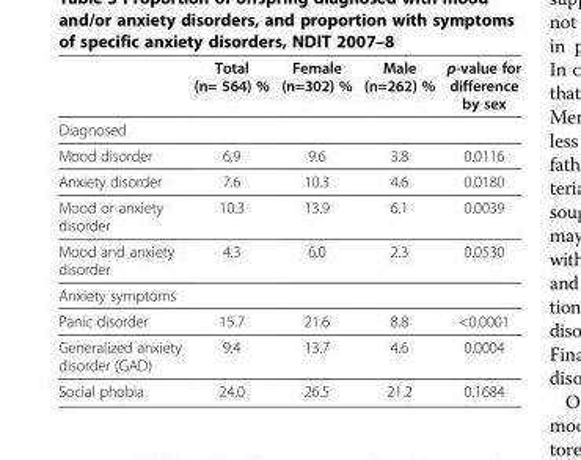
<table><thead><tr><td></td><td>Total (n= 564) %</td><td>Female (n=302) %</td><td>Male (n=262) %</td><td>p-value for difference by sex</td></tr></thead><tbody><tr><td colspan="5">Diagnosed</td></tr><tr><td>Mood disorder</td><td>6.9</td><td>9.6</td><td>3.8</td><td>0.0116</td></tr><tr><td>Anxiety disorder</td><td>7.6</td><td>10.3</td><td>4.6</td><td>0.0180</td></tr><tr><td>Mood or anxiety disorder</td><td>10.3</td><td>13.9</td><td>6.1</td><td>0.0039</td></tr><tr><td>Mood and anxiety disorder</td><td>4.3</td><td>6.0</td><td>2.3</td><td>0.0530</td></tr><tr><td colspan="5">Anxiety symptoms</td></tr><tr><td>Panic disorder</td><td>15.7</td><td>21.6</td><td>8.8</td><td>&lt;0.0001</td></tr><tr><td>Generalized anxiety disorder (GAD)</td><td>9.4</td><td>13.7</td><td>4.6</td><td>0.0004</td></tr><tr><td>Social phobia</td><td>24.0</td><td>26.5</td><td>21.2</td><td>0.1684</td></tr></tbody></table>